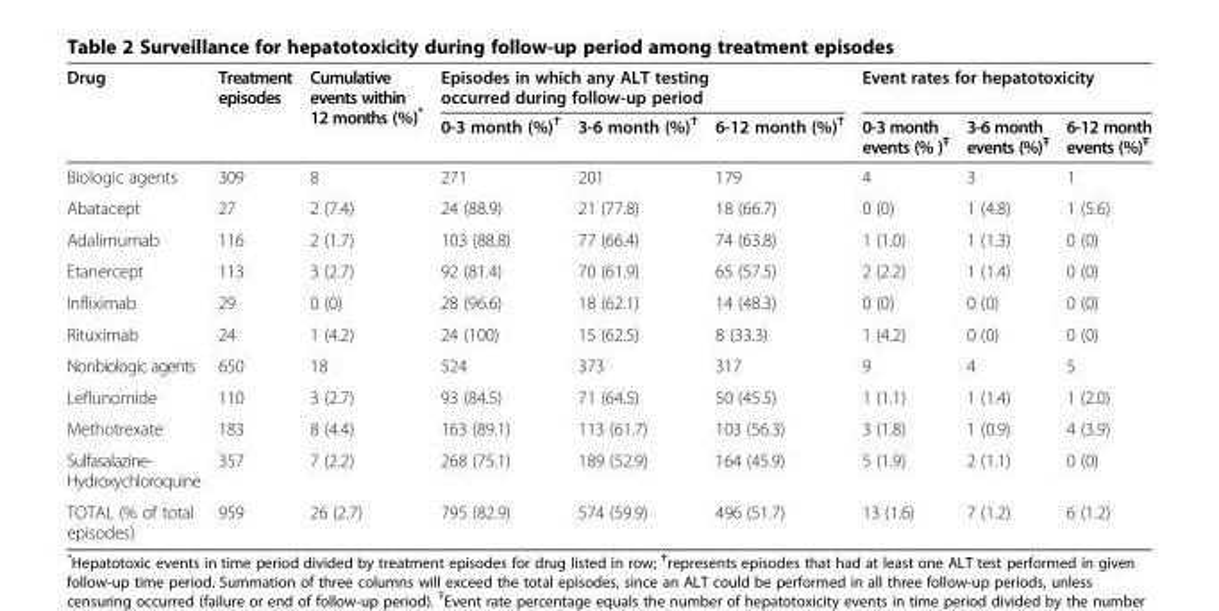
<table><thead><tr><td rowspan="2">Drug</td><td rowspan="2">Treatment episodes</td><td rowspan="2">Cumulative events within 12 months (%)*</td><td colspan="3">Episodes in which any ALT testing occurred during follow-up period</td><td colspan="3">Event rates for hepatotoxicity</td></tr><tr><td>0-3 month (%)<sup>Ϯ</sup></td><td>3-6 month (%)<sup>Ϯ</sup></td><td>6-12 month (%)<sup>Ϯ</sup></td><td>0-3 month events (% )<sup>Ŧ</sup></td><td>3-6 month events (%)<sup>Ŧ</sup></td><td>6-12 month events (%)<sup>Ŧ</sup></td></tr></thead><tbody><tr><td>Biologic agents</td><td>309</td><td>8</td><td>271</td><td>201</td><td>179</td><td>4</td><td>3</td><td>1</td></tr><tr><td>Abatacept</td><td>27</td><td>2 (7.4)</td><td>24 (88.9)</td><td>21 (77.8)</td><td>18 (66.7)</td><td>0 (0)</td><td>1 (4.8)</td><td>1 (5.6)</td></tr><tr><td>Adalimumab</td><td>116</td><td>2 (1.7)</td><td>103 (88.8)</td><td>77 (66.4)</td><td>74 (63.8)</td><td>1 (1.0)</td><td>1 (1.3)</td><td>0 (0)</td></tr><tr><td>Etanercept</td><td>113</td><td>3 (2.7)</td><td>92 (81.4)</td><td>70 (61.9)</td><td>65 (57.5)</td><td>2 (2.2)</td><td>1 (1.4)</td><td>0 (0)</td></tr><tr><td>Infliximab</td><td>29</td><td>0 (0)</td><td>28 (96.6)</td><td>18 (62.1)</td><td>14 (48.3)</td><td>0 (0)</td><td>0 (0)</td><td>0 (0)</td></tr><tr><td>Rituximab</td><td>24</td><td>1 (4.2)</td><td>24 (100)</td><td>15 (62.5)</td><td>8 (33.3)</td><td>1 (4.2)</td><td>0 (0)</td><td>0 (0)</td></tr><tr><td>Nonbiologic agents</td><td>650</td><td>18</td><td>524</td><td>373</td><td>317</td><td>9</td><td>4</td><td>5</td></tr><tr><td>Leflunomide</td><td>110</td><td>3 (2.7)</td><td>93 (84.5)</td><td>71 (64.5)</td><td>50 (45.5)</td><td>1 (1.1)</td><td>1 (1.4)</td><td>1 (2.0)</td></tr><tr><td>Methotrexate</td><td>183</td><td>8 (4.4)</td><td>163 (89.1)</td><td>113 (61.7)</td><td>103 (56.3)</td><td>3 (1.8)</td><td>1 (0.9)</td><td>4 (3.9)</td></tr><tr><td>Sulfasalazine- Hydroxychloroquine</td><td>357</td><td>7 (2.2)</td><td>268 (75.1)</td><td>189 (52.9)</td><td>164 (45.9)</td><td>5 (1.9)</td><td>2 (1.1)</td><td>0 (0)</td></tr><tr><td>TOTAL (% of total episodes)</td><td>959</td><td>26 (2.7)</td><td>795 (82.9)</td><td>574 (59.9)</td><td>496 (51.7)</td><td>13 (1.6)</td><td>7 (1.2)</td><td>6 (1.2)</td></tr></tbody></table>